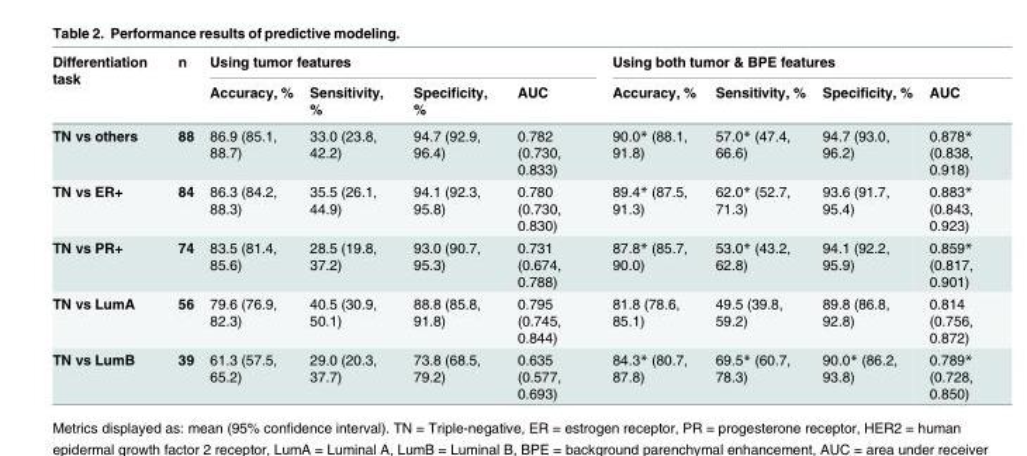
<table><thead><tr><td rowspan="2">Differentiation task</td><td rowspan="2">n</td><td colspan="4">Using tumor features</td><td colspan="4">Using both tumor &amp; BPE features</td></tr><tr><td>Accuracy, %</td><td>Sensitivity, %</td><td>Specificity, %</td><td>AUC</td><td>Accuracy, %</td><td>Sensitivity, %</td><td>Specificity, %</td><td>AUC</td></tr></thead><tbody><tr><td>TN vs others</td><td>88</td><td>86.9 (85.1, 88.7)</td><td>33.0 (23.8, 42.2)</td><td>94.7 (92.9, 96.4)</td><td>0.782 (0.730, 0.833)</td><td>90.0* (88.1, 91.8)</td><td>57.0* (47.4, 66.6)</td><td>94.7 (93.0, 96.2)</td><td>0.878* (0.838, 0.918)</td></tr><tr><td>TN vs ER+</td><td>84</td><td>86.3 (84.2, 88.3)</td><td>35.5 (26.1, 44.9)</td><td>94.1 (92.3, 95.8)</td><td>0.780 (0.730, 0.830)</td><td>89.4* (87.5, 91.3)</td><td>62.0* (52.7, 71.3)</td><td>93.6 (91.7, 95.4)</td><td>0.883* (0.843, 0.923)</td></tr><tr><td>TN vs PR+</td><td>74</td><td>83.5 (81.4, 85.6)</td><td>28.5 (19.8, 37.2)</td><td>93.0 (90.7, 95.3)</td><td>0.731 (0.674, 0.788)</td><td>87.8* (85.7, 90.0)</td><td>53.0* (43.2, 62.8)</td><td>94.1 (92.2, 95.9)</td><td>0.859* (0.817, 0.901)</td></tr><tr><td>TN vs LumA</td><td>56</td><td>79.6 (76.9, 82.3)</td><td>40.5 (30.9, 50.1)</td><td>88.8 (85.8, 91.8)</td><td>0.795 (0.745, 0.844)</td><td>81.8 (78.6, 85.1)</td><td>49.5 (39.8, 59.2)</td><td>89.8 (86.8, 92.8)</td><td>0.814 (0.756, 0.872)</td></tr><tr><td>TN vs LumB</td><td>39</td><td>61.3 (57.5, 65.2)</td><td>29.0 (20.3, 37.7)</td><td>73.8 (68.5, 79.2)</td><td>0.635 (0.577, 0.693)</td><td>84.3* (80.7, 87.8)</td><td>69.5* (60.7, 78.3)</td><td>90.0* (86.2, 93.8)</td><td>0.789* (0.728, 0.850)</td></tr></tbody></table>